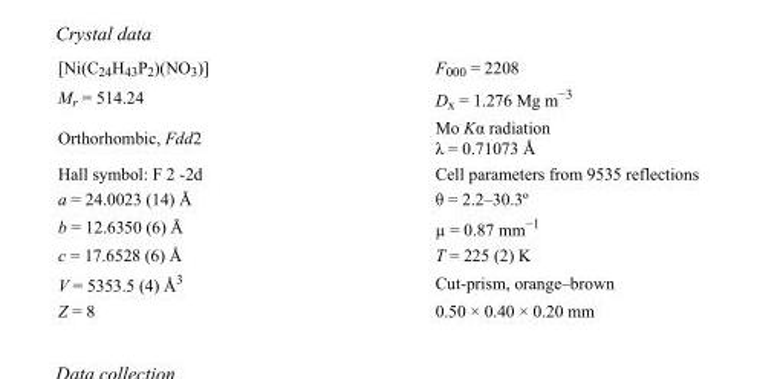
<table><tbody><tr><td>[Ni(C<sub>24</sub>H<sub>43</sub>P<sub>2</sub>)(NO<sub>3</sub>)]</td><td>F000 = 2208</td></tr><tr><td>M<sub>r</sub> = 514.24</td><td>D<sub>x</sub> = 1.276 Mg m<sup>−3</sup></td></tr><tr><td>Orthorhombic, Fdd2</td><td>Mo Kα radiation λ = 0.71073 Å</td></tr><tr><td>Hall symbol: F 2 -2d</td><td>Cell parameters from 9535 reflections</td></tr><tr><td>a = 24.0023 (14) Å</td><td>θ = 2.2–30.3º</td></tr><tr><td>b = 12.6350 (6) Å</td><td>µ = 0.87 mm<sup>−1</sup></td></tr><tr><td>c = 17.6528 (6) Å</td><td>T = 225 (2) K</td></tr><tr><td>V = 5353.5 (4) Å<sup>3</sup></td><td>Cut-prism, orange–brown</td></tr><tr><td>Z = 8</td><td>0.50 × 0.40 × 0.20 mm</td></tr></tbody></table>